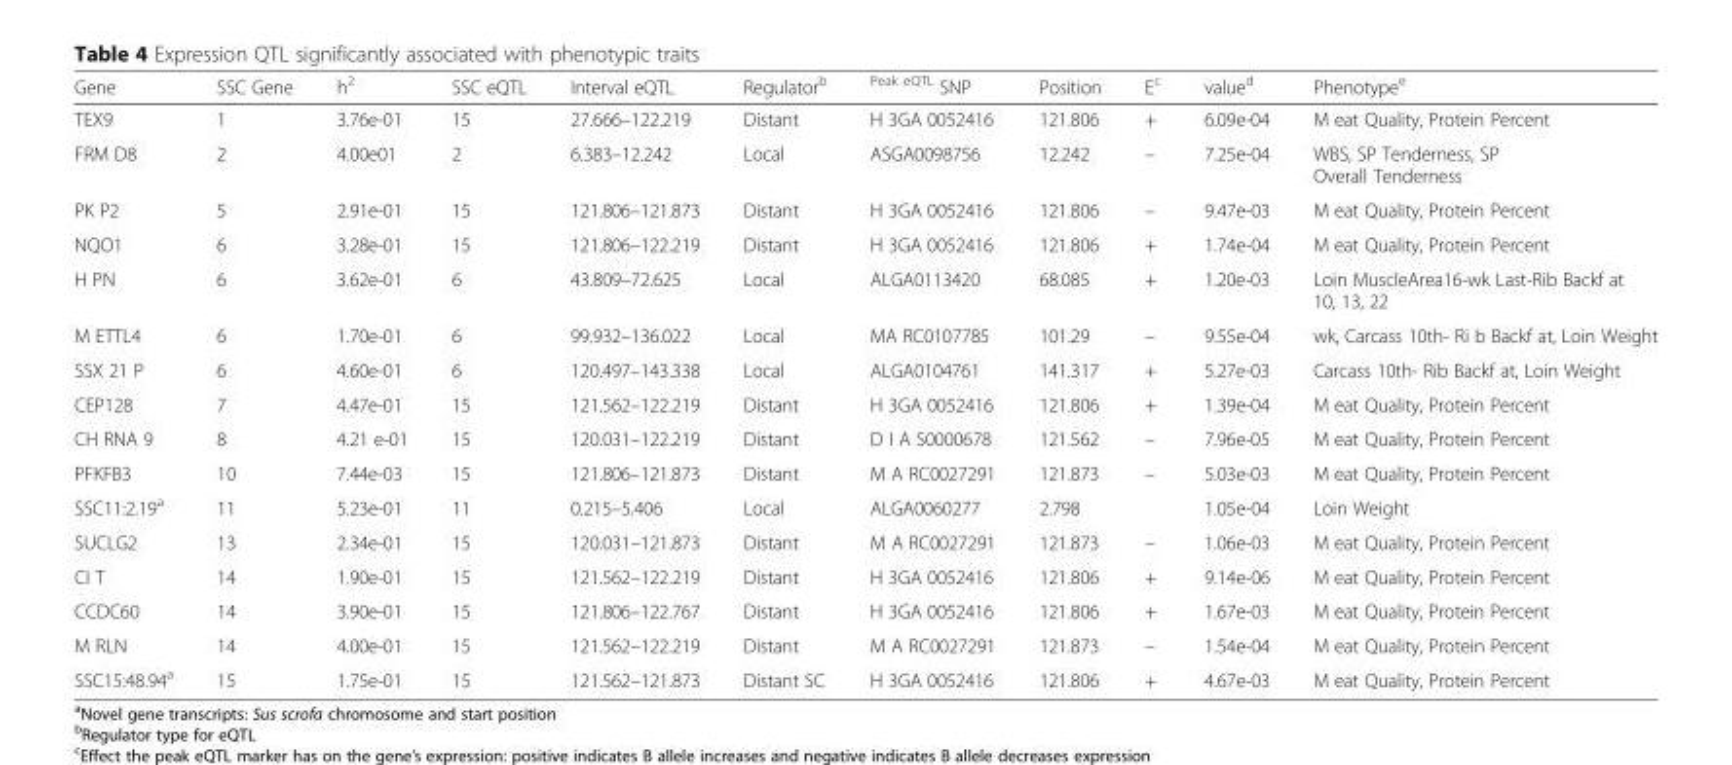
<table><thead><tr><td>Gene</td><td>SSC Gene</td><td>h<sup>2</sup></td><td>SSC eQTL</td><td>Interval eQTL</td><td>Regulator<sup>b</sup></td><td><sup>Peak eQTL</sup> SNP</td><td>Position</td><td>E<sup>c</sup></td><td>value<sup>d</sup></td><td>Phenotype<sup>e</sup></td></tr></thead><tbody><tr><td>TEX9</td><td>1</td><td>3.76e-01</td><td>15</td><td>27.666–122.219</td><td>Distant</td><td>H 3GA 0052416</td><td>121.806</td><td>+</td><td>6.09e-04</td><td>M eat Quality, Protein Percent</td></tr><tr><td>FRM D8</td><td>2</td><td>4.00e01</td><td>2</td><td>6.383–12.242</td><td>Local</td><td>ASGA0098756</td><td>12.242</td><td>–</td><td>7.25e-04</td><td>WBS, SP Tenderness, SP Overall Tenderness</td></tr><tr><td>PK P2</td><td>5</td><td>2.91e-01</td><td>15</td><td>121.806–121.873</td><td>Distant</td><td>H 3GA 0052416</td><td>121.806</td><td>–</td><td>9.47e-03</td><td>M eat Quality, Protein Percent</td></tr><tr><td>NQO1</td><td>6</td><td>3.28e-01</td><td>15</td><td>121.806–122.219</td><td>Distant</td><td>H 3GA 0052416</td><td>121.806</td><td>+</td><td>1.74e-04</td><td>M eat Quality, Protein Percent</td></tr><tr><td>H PN</td><td>6</td><td>3.62e-01</td><td>6</td><td>43.809–72.625</td><td>Local</td><td>ALGA0113420</td><td>68.085</td><td>+</td><td>1.20e-03</td><td>Loin MuscleArea16-wk Last-Rib Backf at 10, 13, 22</td></tr><tr><td>M ETTL4</td><td>6</td><td>1.70e-01</td><td>6</td><td>99.932–136.022</td><td>Local</td><td>MA RC0107785</td><td>101.29</td><td>–</td><td>9.55e-04</td><td>wk, Carcass 10th- Ri b Backf at, Loin Weight</td></tr><tr><td>SSX 21 P</td><td>6</td><td>4.60e-01</td><td>6</td><td>120.497–143.338</td><td>Local</td><td>ALGA0104761</td><td>141.317</td><td>+</td><td>5.27e-03</td><td>Carcass 10th- Rib Backf at, Loin Weight</td></tr><tr><td>CEP128</td><td>7</td><td>4.47e-01</td><td>15</td><td>121.562–122.219</td><td>Distant</td><td>H 3GA 0052416</td><td>121.806</td><td>+</td><td>1.39e-04</td><td>M eat Quality, Protein Percent</td></tr><tr><td>CH RNA 9</td><td>8</td><td>4.21 e-01</td><td>15</td><td>120.031–122.219</td><td>Distant</td><td>D I A S0000678</td><td>121.562</td><td>–</td><td>7.96e-05</td><td>M eat Quality, Protein Percent</td></tr><tr><td>PFKFB3</td><td>10</td><td>7.44e-03</td><td>15</td><td>121.806–121.873</td><td>Distant</td><td>M A RC0027291</td><td>121.873</td><td>–</td><td>5.03e-03</td><td>M eat Quality, Protein Percent</td></tr><tr><td>SSC11:2.19<sup>a</sup></td><td>11</td><td>5.23e-01</td><td>11</td><td>0.215–5.406</td><td>Local</td><td>ALGA0060277</td><td>2.798</td><td></td><td>1.05e-04</td><td>Loin Weight</td></tr><tr><td>SUCLG2</td><td>13</td><td>2.34e-01</td><td>15</td><td>120.031–121.873</td><td>Distant</td><td>M A RC0027291</td><td>121.873</td><td>–</td><td>1.06e-03</td><td>M eat Quality, Protein Percent</td></tr><tr><td>CI T</td><td>14</td><td>1.90e-01</td><td>15</td><td>121.562–122.219</td><td>Distant</td><td>H 3GA 0052416</td><td>121.806</td><td>+</td><td>9.14e-06</td><td>M eat Quality, Protein Percent</td></tr><tr><td>CCDC60</td><td>14</td><td>3.90e-01</td><td>15</td><td>121.806–122.767</td><td>Distant</td><td>H 3GA 0052416</td><td>121.806</td><td>+</td><td>1.67e-03</td><td>M eat Quality, Protein Percent</td></tr><tr><td>M RLN</td><td>14</td><td>4.00e-01</td><td>15</td><td>121.562–122.219</td><td>Distant</td><td>M A RC0027291</td><td>121.873</td><td>–</td><td>1.54e-04</td><td>M eat Quality, Protein Percent</td></tr><tr><td>SSC15:48.94<sup>a</sup></td><td>15</td><td>1.75e-01</td><td>15</td><td>121.562–121.873</td><td>Distant SC</td><td>H 3GA 0052416</td><td>121.806</td><td>+</td><td>4.67e-03</td><td>M eat Quality, Protein Percent</td></tr></tbody></table>